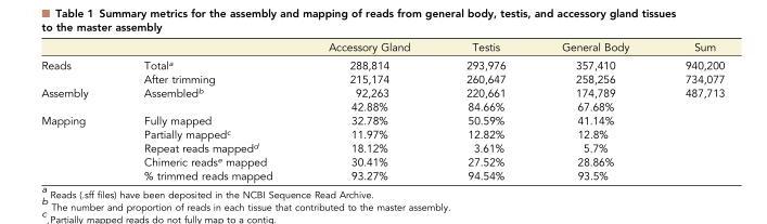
<table><thead><tr><td></td><td></td><td>Accessory Gland</td><td>Testis</td><td>General Body</td><td>Sum</td></tr></thead><tbody><tr><td rowspan="2">Reads</td><td>Total<sup>a</sup></td><td>288,814</td><td>293,976</td><td>357,410</td><td>940,200</td></tr><tr><td>After trimming</td><td>215,174</td><td>260,647</td><td>258,256</td><td>734,077</td></tr><tr><td rowspan="2">Assembly</td><td rowspan="2">Assembled<sup>b</sup></td><td>92,263</td><td>220,661</td><td>174,789</td><td>487,713</td></tr><tr><td>42.88%</td><td>84.66%</td><td>67.68%</td><td></td></tr><tr><td rowspan="5">Mapping</td><td>Fully mapped</td><td>32.78%</td><td>50.59%</td><td>41.14%</td><td></td></tr><tr><td>Partially mapped<sup>c</sup></td><td>11.97%</td><td>12.82%</td><td>12.8%</td><td></td></tr><tr><td>Repeat reads mapped<sup>d</sup></td><td>18.12%</td><td>3.61%</td><td>5.7%</td><td></td></tr><tr><td>Chimeric reads<sup>e</sup> mapped</td><td>30.41%</td><td>27.52%</td><td>28.86%</td><td></td></tr><tr><td>% trimmed reads mapped</td><td>93.27%</td><td>94.54%</td><td>93.5%</td><td></td></tr></tbody></table>